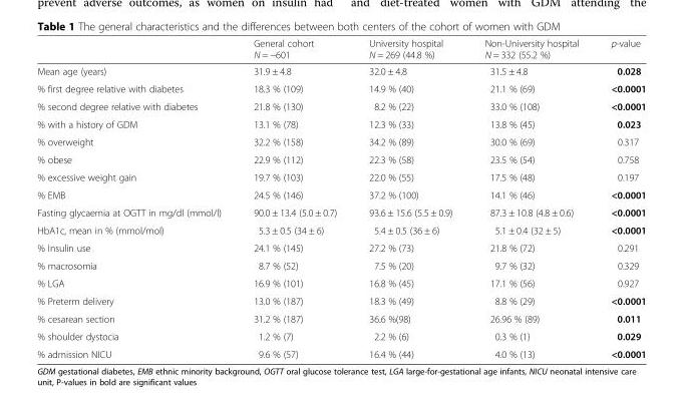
<table><thead><tr><td></td><td>General cohort N = −601</td><td>University hospital N = 269 (44.8 %)</td><td>Non-University hospital N = 332 (55.2 %)</td><td>p-value</td></tr></thead><tbody><tr><td>Mean age (years)</td><td>31.9 ± 4.8</td><td>32.0 ± 4.8</td><td>31.5 ± 4.8</td><td>0.028</td></tr><tr><td>% first degree relative with diabetes</td><td>18.3 % (109)</td><td>14.9 % (40)</td><td>21.1 % (69)</td><td>&lt;0.0001</td></tr><tr><td>% second degree relative with diabetes</td><td>21.8 % (130)</td><td>8.2 % (22)</td><td>33.0 % (108)</td><td>&lt;0.0001</td></tr><tr><td>% with a history of GDM</td><td>13.1 % (78)</td><td>12.3 % (33)</td><td>13.8 % (45)</td><td>0.023</td></tr><tr><td>% overweight</td><td>32.2 % (158)</td><td>34.2 % (89)</td><td>30.0 % (69)</td><td>0.317</td></tr><tr><td>% obese</td><td>22.9 % (112)</td><td>22.3 % (58)</td><td>23.5 % (54)</td><td>0.758</td></tr><tr><td>% excessive weight gain</td><td>19.7 % (103)</td><td>22.0 % (55)</td><td>17.5 % (48)</td><td>0.197</td></tr><tr><td>% EMB</td><td>24.5 % (146)</td><td>37.2 % (100)</td><td>14.1 % (46)</td><td>&lt;0.0001</td></tr><tr><td>Fasting glycaemia at OGTT in mg/dl (mmol/l)</td><td>90.0 ± 13.4 (5.0 ± 0.7)</td><td>93.6 ± 15.6 (5.5 ± 0.9)</td><td>87.3 ± 10.8 (4.8 ± 0.6)</td><td>&lt;0.0001</td></tr><tr><td>HbA1c, mean in % (mmol/mol)</td><td>5.3 ± 0.5 (34 ± 6)</td><td>5.4 ± 0.5 (36 ± 6)</td><td>5.1 ± 0.4 (32 ± 5)</td><td>&lt;0.0001</td></tr><tr><td>% Insulin use</td><td>24.1 % (145)</td><td>27.2 % (73)</td><td>21.8 % (72)</td><td>0.291</td></tr><tr><td>% macrosomia</td><td>8.7 % (52)</td><td>7.5 % (20)</td><td>9.7 % (32)</td><td>0.329</td></tr><tr><td>% LGA</td><td>16.9 % (101)</td><td>16.8 % (45)</td><td>17.1 % (56)</td><td>0.927</td></tr><tr><td>% Preterm delivery</td><td>13.0 % (187)</td><td>18.3 % (49)</td><td>8.8 % (29)</td><td>&lt;0.0001</td></tr><tr><td>% cesarean section</td><td>31.2 % (187)</td><td>36.6 %(98)</td><td>26.96 % (89)</td><td>0.011</td></tr><tr><td>% shoulder dystocia</td><td>1.2 % (7)</td><td>2.2 % (6)</td><td>0.3 % (1)</td><td>0.029</td></tr><tr><td>% admission NICU</td><td>9.6 % (57)</td><td>16.4 % (44)</td><td>4.0 % (13)</td><td>&lt;0.0001</td></tr></tbody></table>